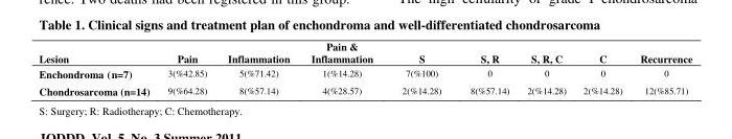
<table><tbody><tr><td>Lesion</td><td>Pain</td><td>Inflammation</td><td>Pain &amp; Inflammation</td><td>S</td><td>S, R</td><td>S, R, C</td><td>C</td><td>Recurrence</td></tr><tr><td>Enchondroma (n=7)</td><td>3(%42.85)</td><td>5(%71.42)</td><td>1(%14.28)</td><td>7(%100)</td><td>0</td><td>0</td><td>0</td><td>0</td></tr><tr><td>Chondrosarcoma (n=14)</td><td>9(%64.28)</td><td>8(%57.14)</td><td>4(%28.57)</td><td>2(%14.28)</td><td>8(%57.14)</td><td>2(%14.28)</td><td>2(%14.28)</td><td>12(%85.71)</td></tr></tbody></table>